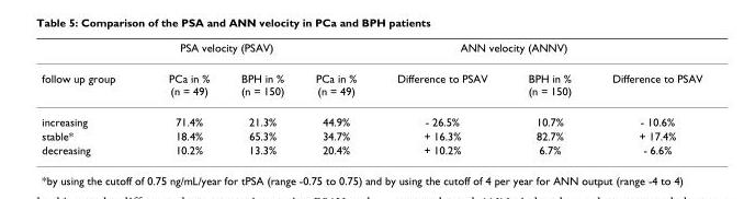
<table><thead><tr><td rowspan="2">follow up group</td><td colspan="2">PSA velocity (PSAV)</td><td colspan="4">ANN velocity (ANNV)</td></tr><tr><td>PCa in % (n = 49)</td><td>BPH in % (n = 150)</td><td>PCa in % (n = 49)</td><td>Difference to PSAV</td><td>BPH in % (n = 150)</td><td>Difference to PSAV</td></tr></thead><tbody><tr><td>increasing</td><td>71.4%</td><td>21.3%</td><td>44.9%</td><td>- 26.5%</td><td>10.7%</td><td>- 10.6%</td></tr><tr><td>stable*</td><td>18.4%</td><td>65.3%</td><td>34.7%</td><td>+ 16.3%</td><td>82.7%</td><td>+ 17.4%</td></tr><tr><td>decreasing</td><td>10.2%</td><td>13.3%</td><td>20.4%</td><td>+ 10.2%</td><td>6.7%</td><td>- 6.6%</td></tr></tbody></table>